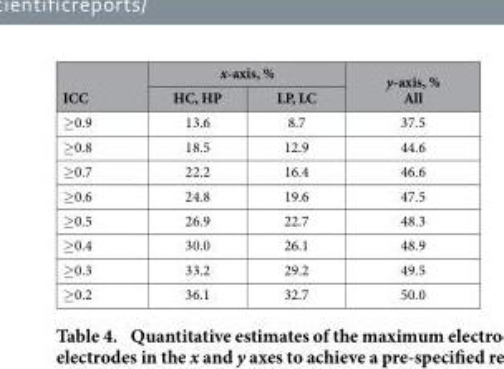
<table><thead><tr><td rowspan="2">ICC</td><td colspan="2">x-axis, %</td><td rowspan="2">y-axis, % All</td></tr><tr><td>HC, HP</td><td>LP, LC</td></tr></thead><tbody><tr><td>≥ 0.9</td><td>13.6</td><td>8.7</td><td>37.5</td></tr><tr><td>≥ 0.8</td><td>18.5</td><td>12.9</td><td>44.6</td></tr><tr><td>≥ 0.7</td><td>22.2</td><td>16.4</td><td>46.6</td></tr><tr><td>≥ 0.6</td><td>24.8</td><td>19.6</td><td>47.5</td></tr><tr><td>≥ 0.5</td><td>26.9</td><td>22.7</td><td>48.3</td></tr><tr><td>≥ 0.4</td><td>30.0</td><td>26.1</td><td>48.9</td></tr><tr><td>≥ 0.3</td><td>33.2</td><td>29.2</td><td>49.5</td></tr><tr><td>≥ 0.2</td><td>36.1</td><td>32.7</td><td>50.0</td></tr></tbody></table>